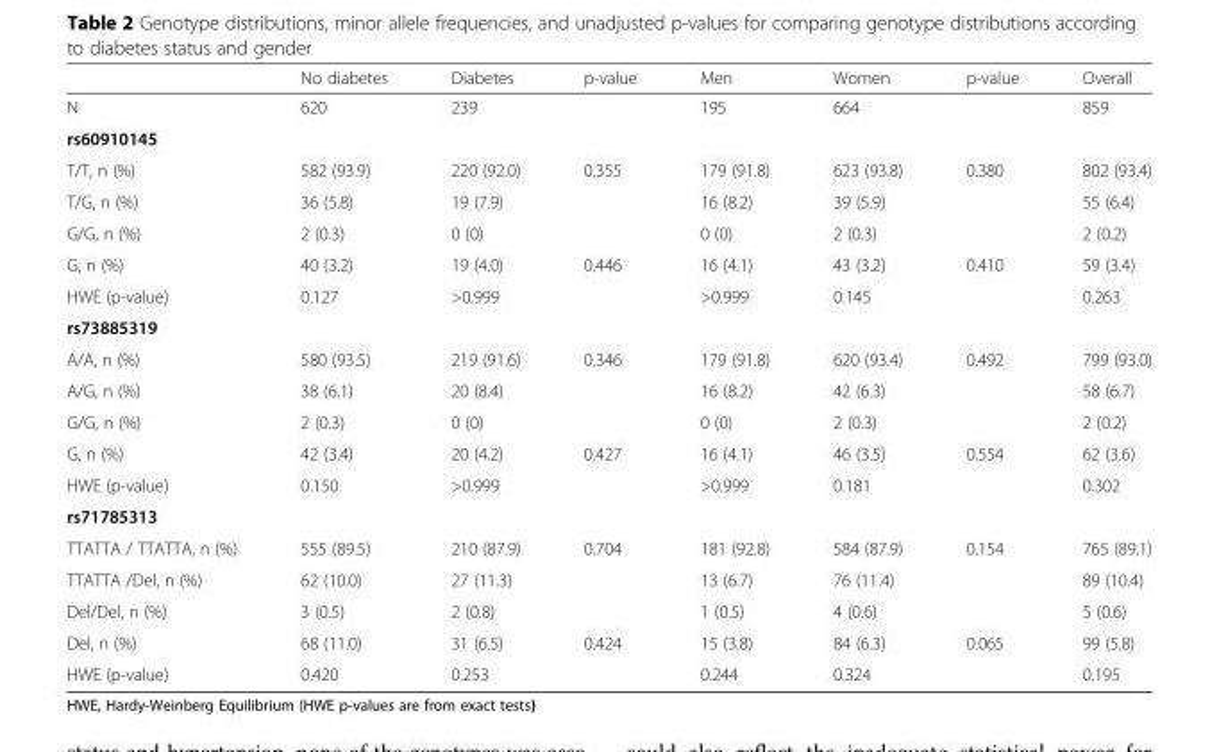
<table><thead><tr><td></td><td>No diabetes</td><td>Diabetes</td><td>p-value</td><td>Men</td><td>Women</td><td>p-value</td><td>Overall</td></tr></thead><tbody><tr><td>N</td><td>620</td><td>239</td><td></td><td>195</td><td>664</td><td></td><td>859</td></tr><tr><td colspan="8">rs60910145</td></tr><tr><td>T/T, n (%)</td><td>582 (93.9)</td><td>220 (92.0)</td><td>0.355</td><td>179 (91.8)</td><td>623 (93.8)</td><td>0.380</td><td>802 (93.4)</td></tr><tr><td>T/G, n (%)</td><td>36 (5.8)</td><td>19 (7.9)</td><td></td><td>16 (8.2)</td><td>39 (5.9)</td><td></td><td>55 (6.4)</td></tr><tr><td>G/G, n (%)</td><td>2 (0.3)</td><td>0 (0)</td><td></td><td>0 (0)</td><td>2 (0.3)</td><td></td><td>2 (0.2)</td></tr><tr><td>G, n (%)</td><td>40 (3.2)</td><td>19 (4.0)</td><td>0.446</td><td>16 (4.1)</td><td>43 (3.2)</td><td>0.410</td><td>59 (3.4)</td></tr><tr><td>HWE (p-value)</td><td>0.127</td><td>&gt;0.999</td><td></td><td>&gt;0.999</td><td>0.145</td><td></td><td>0.263</td></tr><tr><td colspan="8">rs73885319</td></tr><tr><td>A/A, n (%)</td><td>580 (93.5)</td><td>219 (91.6)</td><td>0.346</td><td>179 (91.8)</td><td>620 (93.4)</td><td>0.492</td><td>799 (93.0)</td></tr><tr><td>A/G, n (%)</td><td>38 (6.1)</td><td>20 (8.4)</td><td></td><td>16 (8.2)</td><td>42 (6.3)</td><td></td><td>58 (6.7)</td></tr><tr><td>G/G, n (%)</td><td>2 (0.3)</td><td>0 (0)</td><td></td><td>0 (0)</td><td>2 (0.3)</td><td></td><td>2 (0.2)</td></tr><tr><td>G, n (%)</td><td>42 (3.4)</td><td>20 (4.2)</td><td>0.427</td><td>16 (4.1)</td><td>46 (3.5)</td><td>0.554</td><td>62 (3.6)</td></tr><tr><td>HWE (p-value)</td><td>0.150</td><td>&gt;0.999</td><td></td><td>&gt;0.999</td><td>0.181</td><td></td><td>0.302</td></tr><tr><td colspan="8">rs71785313</td></tr><tr><td>TTATTA / TTATTA, n (%)</td><td>555 (89.5)</td><td>210 (87.9)</td><td>0.704</td><td>181 (92.8)</td><td>584 (87.9)</td><td>0.154</td><td>765 (89.1)</td></tr><tr><td>TTATTA /Del, n (%)</td><td>62 (10.0)</td><td>27 (11.3)</td><td></td><td>13 (6.7)</td><td>76 (11.4)</td><td></td><td>89 (10.4)</td></tr><tr><td>Del/Del, n (%)</td><td>3 (0.5)</td><td>2 (0.8)</td><td></td><td>1 (0.5)</td><td>4 (0.6)</td><td></td><td>5 (0.6)</td></tr><tr><td>Del, n (%)</td><td>68 (11.0)</td><td>31 (6.5)</td><td>0.424</td><td>15 (3.8)</td><td>84 (6.3)</td><td>0.065</td><td>99 (5.8)</td></tr><tr><td>HWE (p-value)</td><td>0.420</td><td>0.253</td><td></td><td>0.244</td><td>0.324</td><td></td><td>0.195</td></tr></tbody></table>